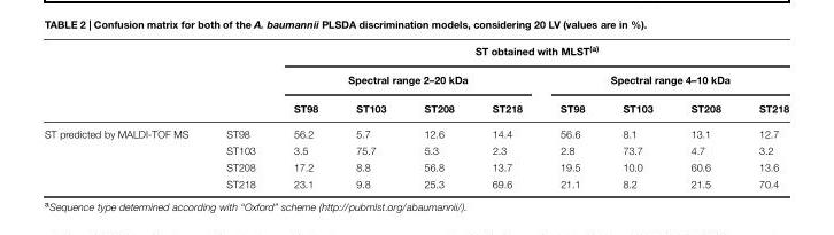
<table><thead><tr><td rowspan="3"></td><td rowspan="3"></td><td colspan="8">ST obtained with MLST<sup>(a)</sup></td></tr><tr><td colspan="4">Spectral range 2–20 kDa</td><td colspan="4">Spectral range 4–10 kDa</td></tr><tr><td>ST98</td><td>ST103</td><td>ST208</td><td>ST218</td><td>ST98</td><td>ST103</td><td>ST208</td><td>ST218</td></tr></thead><tbody><tr><td rowspan="4">ST predicted by MALDI-TOF MS</td><td>ST98</td><td>56.2</td><td>5.7</td><td>12.6</td><td>14.4</td><td>56.6</td><td>8.1</td><td>13.1</td><td>12.7</td></tr><tr><td>ST103</td><td>3.5</td><td>75.7</td><td>5.3</td><td>2.3</td><td>2.8</td><td>73.7</td><td>4.7</td><td>3.2</td></tr><tr><td>ST208</td><td>17.2</td><td>8.8</td><td>56.8</td><td>13.7</td><td>19.5</td><td>10.0</td><td>60.6</td><td>13.6</td></tr><tr><td>ST218</td><td>23.1</td><td>9.8</td><td>25.3</td><td>69.6</td><td>21.1</td><td>8.2</td><td>21.5</td><td>70.4</td></tr></tbody></table>